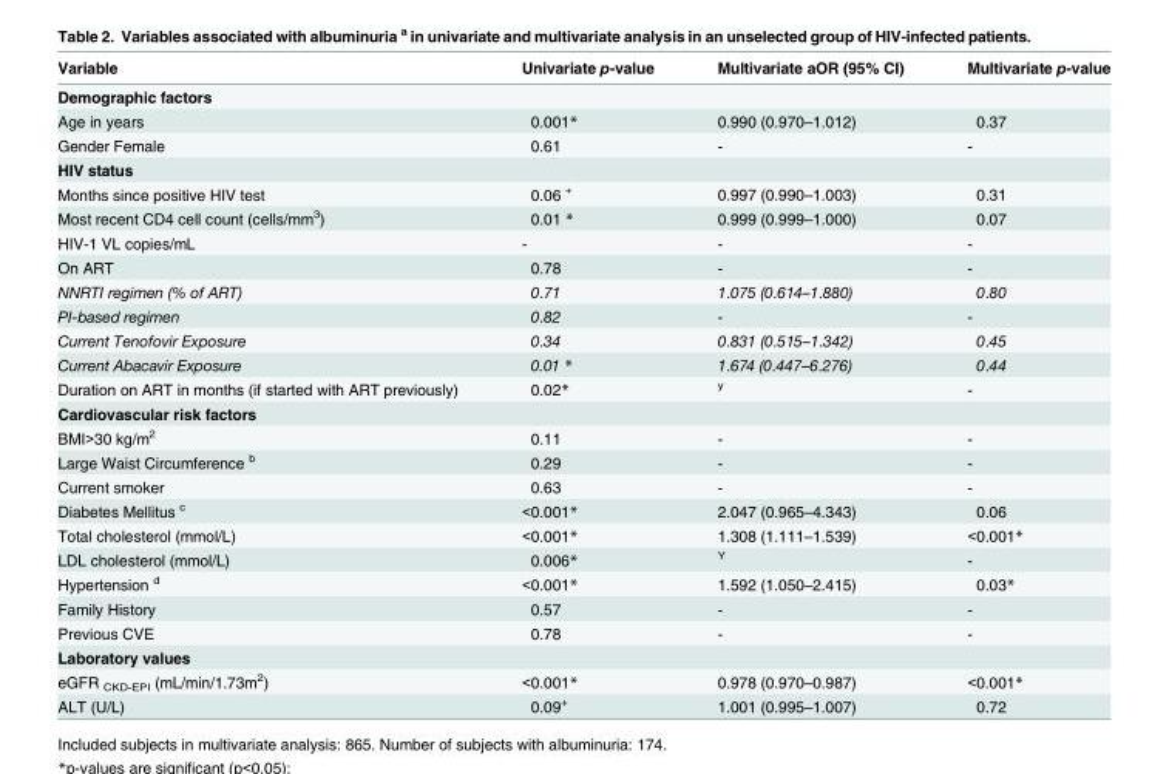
<table><thead><tr><td>Variable</td><td>Univariate p-value</td><td>Multivariate aOR (95% CI)</td><td>Multivariate p-value</td></tr></thead><tbody><tr><td colspan="4">Demographic factors</td></tr><tr><td>Age in years</td><td>0.001*</td><td>0.990 (0.970–1.012)</td><td>0.37</td></tr><tr><td>Gender Female</td><td>0.61</td><td>-</td><td>-</td></tr><tr><td colspan="4">HIV status</td></tr><tr><td>Months since positive HIV test</td><td>0.06 <sup>+</sup></td><td>0.997 (0.990–1.003)</td><td>0.31</td></tr><tr><td>Most recent CD4 cell count (cells/mm<sup>3</sup>)</td><td>0.01 *</td><td>0.999 (0.999–1.000)</td><td>0.07</td></tr><tr><td>HIV-1 VL copies/mL</td><td>-</td><td>-</td><td>-</td></tr><tr><td>On ART</td><td>0.78</td><td>-</td><td>-</td></tr><tr><td>NNRTI regimen (% of ART)</td><td>0.71</td><td>1.075 (0.614–1.880)</td><td>0.80</td></tr><tr><td>PI-based regimen</td><td>0.82</td><td>-</td><td>-</td></tr><tr><td>Current Tenofovir Exposure</td><td>0.34</td><td>0.831 (0.515–1.342)</td><td>0.45</td></tr><tr><td>Current Abacavir Exposure</td><td>0.01 *</td><td>1.674 (0.447–6.276)</td><td>0.44</td></tr><tr><td>Duration on ART in months (if started with ART previously)</td><td>0.02*</td><td><sup>y</sup></td><td>-</td></tr><tr><td colspan="4">Cardiovascular risk factors</td></tr><tr><td>BMI&gt;30 kg/m<sup>2</sup></td><td>0.11</td><td>-</td><td>-</td></tr><tr><td>Large Waist Circumference <sup>b</sup></td><td>0.29</td><td>-</td><td>-</td></tr><tr><td>Current smoker</td><td>0.63</td><td>-</td><td>-</td></tr><tr><td>Diabetes Mellitus <sup>c</sup></td><td>&lt;0.001*</td><td>2.047 (0.965–4.343)</td><td>0.06</td></tr><tr><td>Total cholesterol (mmol/L)</td><td>&lt;0.001*</td><td>1.308 (1.111–1.539)</td><td>&lt;0.001*</td></tr><tr><td>LDL cholesterol (mmol/L)</td><td>0.006*</td><td><sup>Y</sup></td><td>-</td></tr><tr><td>Hypertension <sup>d</sup></td><td>&lt;0.001*</td><td>1.592 (1.050–2.415)</td><td>0.03*</td></tr><tr><td>Family History</td><td>0.57</td><td>-</td><td>-</td></tr><tr><td>Previous CVE</td><td>0.78</td><td>-</td><td>-</td></tr><tr><td colspan="4">Laboratory values</td></tr><tr><td>eGFR <sub>CKD-EPI</sub> (mL/min/1.73m<sup>2</sup>)</td><td>&lt;0.001*</td><td>0.978 (0.970–0.987)</td><td>&lt;0.001*</td></tr><tr><td>ALT (U/L)</td><td>0.09<sup>+</sup></td><td>1.001 (0.995–1.007)</td><td>0.72</td></tr></tbody></table>